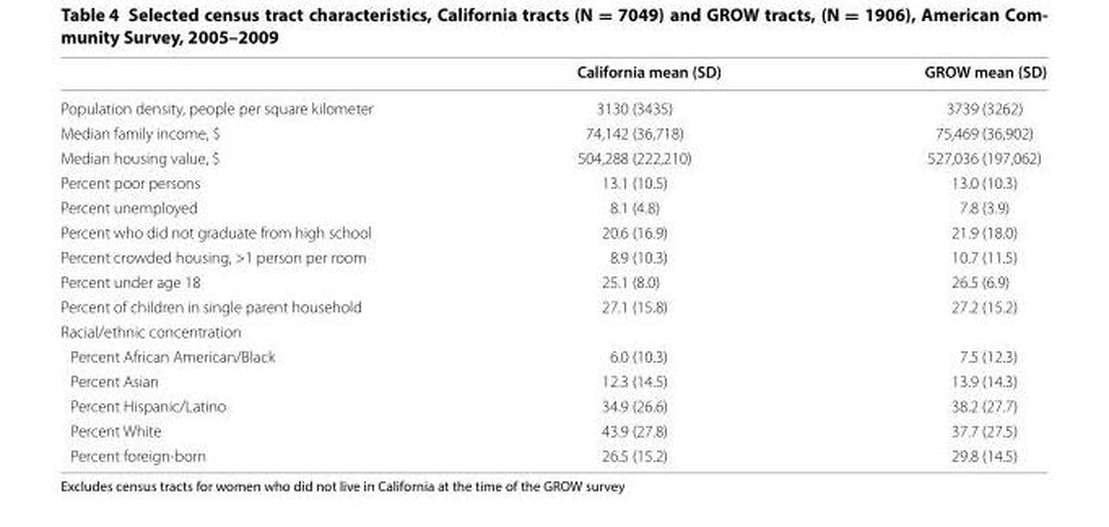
<table><thead><tr><td></td><td>California mean (SD)</td><td>GROW mean (SD)</td></tr></thead><tbody><tr><td>Population density, people per square kilometer</td><td>3130 (3435)</td><td>3739 (3262)</td></tr><tr><td>Median family income, $</td><td>74,142 (36,718)</td><td>75,469 (36,902)</td></tr><tr><td>Median housing value, $</td><td>504,288 (222,210)</td><td>527,036 (197,062)</td></tr><tr><td>Percent poor persons</td><td>13.1 (10.5)</td><td>13.0 (10.3)</td></tr><tr><td>Percent unemployed</td><td>8.1 (4.8)</td><td>7.8 (3.9)</td></tr><tr><td>Percent who did not graduate from high school</td><td>20.6 (16.9)</td><td>21.9 (18.0)</td></tr><tr><td>Percent crowded housing, &gt;1 person per room</td><td>8.9 (10.3)</td><td>10.7 (11.5)</td></tr><tr><td>Percent under age 18</td><td>25.1 (8.0)</td><td>26.5 (6.9)</td></tr><tr><td>Percent of children in single parent household</td><td>27.1 (15.8)</td><td>27.2 (15.2)</td></tr><tr><td colspan="3">Racial/ethnic concentration</td></tr><tr><td>Percent African American/Black</td><td>6.0 (10.3)</td><td>7.5 (12.3)</td></tr><tr><td>Percent Asian</td><td>12.3 (14.5)</td><td>13.9 (14.3)</td></tr><tr><td>Percent Hispanic/Latino</td><td>34.9 (26.6)</td><td>38.2 (27.7)</td></tr><tr><td>Percent White</td><td>43.9 (27.8)</td><td>37.7 (27.5)</td></tr><tr><td>Percent foreign-born</td><td>26.5 (15.2)</td><td>29.8 (14.5)</td></tr></tbody></table>